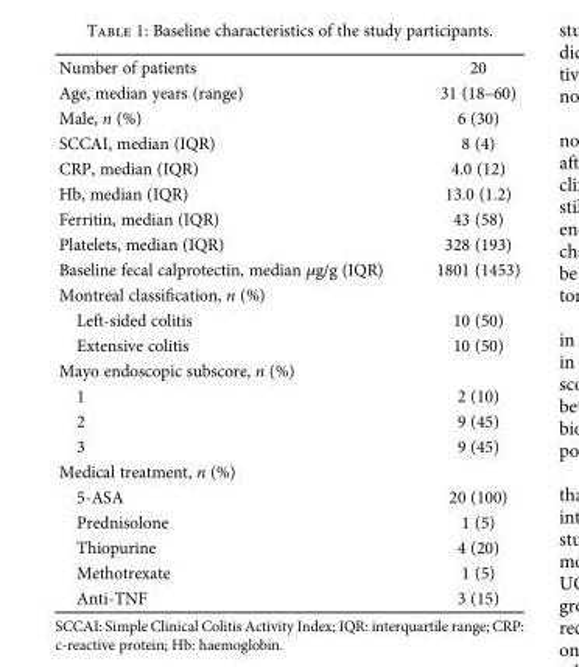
<table><tbody><tr><td>Number of patients</td><td>20</td></tr><tr><td>Age, median years (range)</td><td>31 (18–60)</td></tr><tr><td>Male, n (%)</td><td>6 (30)</td></tr><tr><td>SCCAI, median (IQR)</td><td>8 (4)</td></tr><tr><td>CRP, median (IQR)</td><td>4.0 (12)</td></tr><tr><td>Hb, median (IQR)</td><td>13.0 (1.2)</td></tr><tr><td>Ferritin, median (IQR)</td><td>43 (58)</td></tr><tr><td>Platelets, median (IQR)</td><td>328 (193)</td></tr><tr><td>Baseline fecal calprotectin, median μg/g (IQR)</td><td>1801 (1453)</td></tr><tr><td colspan="2">Montreal classification, n (%)</td></tr><tr><td>Left-sided colitis</td><td>10 (50)</td></tr><tr><td>Extensive colitis</td><td>10 (50)</td></tr><tr><td colspan="2">Mayo endoscopic subscore, n (%)</td></tr><tr><td>1</td><td>2 (10)</td></tr><tr><td>2</td><td>9 (45)</td></tr><tr><td>3</td><td>9 (45)</td></tr><tr><td colspan="2">Medical treatment, n (%)</td></tr><tr><td>5-ASA</td><td>20 (100)</td></tr><tr><td>Prednisolone</td><td>1 (5)</td></tr><tr><td>Thiopurine</td><td>4 (20)</td></tr><tr><td>Methotrexate</td><td>1 (5)</td></tr><tr><td>Anti-TNF</td><td>3 (15)</td></tr></tbody></table>